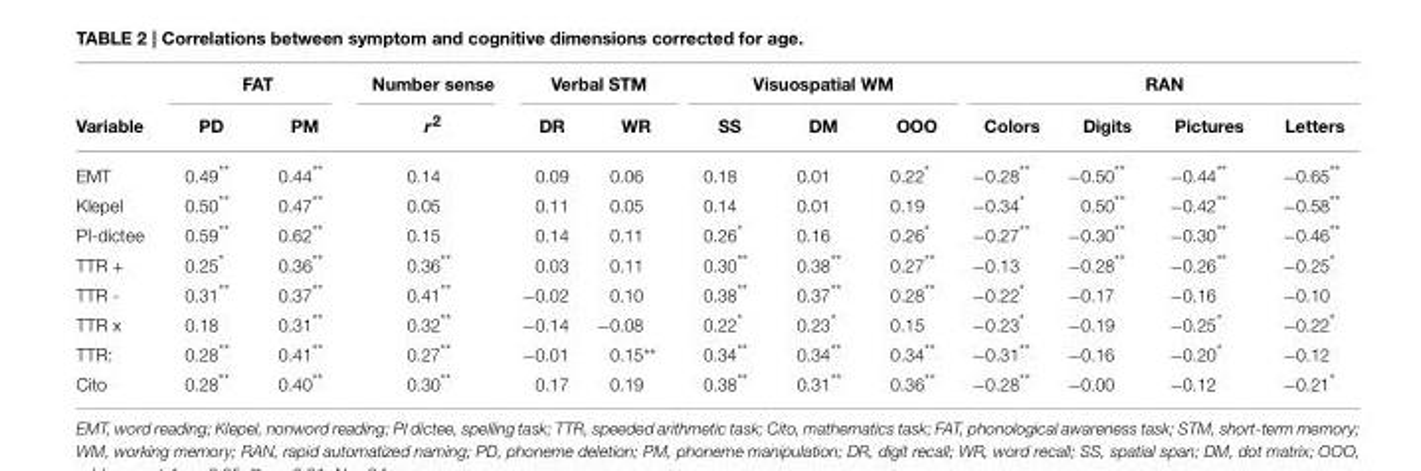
<table><thead><tr><td rowspan="2">Variable</td><td colspan="2">FAT</td><td rowspan="2">Number sense r<sup>2</sup></td><td colspan="2">Verbal STM</td><td colspan="3">Visuospatial WM</td><td colspan="4">RAN</td></tr><tr><td>PD</td><td>PM</td><td>DR</td><td>WR</td><td>SS</td><td>DM</td><td>OOO</td><td>Colors</td><td>Digits</td><td>Pictures</td><td>Letters</td></tr></thead><tbody><tr><td>EMT</td><td>0.49**</td><td>0.44**</td><td>0.14</td><td>0.09</td><td>0.06</td><td>0.18</td><td>0.01</td><td>0.22*</td><td>−0.28**</td><td>−0.50**</td><td>−0.44**</td><td>−0.65**</td></tr><tr><td>Klepel</td><td>0.50**</td><td>0.47**</td><td>0.05</td><td>0.11</td><td>0.05</td><td>0.14</td><td>0.01</td><td>0.19</td><td>−0.34*</td><td>0.50**</td><td>−0.42**</td><td>−0.58**</td></tr><tr><td>PI-dictee</td><td>0.59**</td><td>0.62**</td><td>0.15</td><td>0.14</td><td>0.11</td><td>0.26*</td><td>0.16</td><td>0.26*</td><td>−0.27**</td><td>−0.30**</td><td>−0.30**</td><td>−0.46**</td></tr><tr><td>TTR +</td><td>0.25*</td><td>0.36**</td><td>0.36**</td><td>0.03</td><td>0.11</td><td>0.30**</td><td>0.38**</td><td>0.27**</td><td>−0.13</td><td>−0.28**</td><td>−0.26**</td><td>−0.25*</td></tr><tr><td>TTR -</td><td>0.31**</td><td>0.37**</td><td>0.41**</td><td>−0.02</td><td>0.10</td><td>0.38**</td><td>0.37**</td><td>0.28**</td><td>−0.22*</td><td>−0.17</td><td>−0.16</td><td>−0.10</td></tr><tr><td>TTR x</td><td>0.18</td><td>0.31**</td><td>0.32**</td><td>−0.14</td><td>−0.08</td><td>0.22*</td><td>0.23*</td><td>0.15</td><td>−0.23*</td><td>−0.19</td><td>−0.25*</td><td>−0.22*</td></tr><tr><td>TTR:</td><td>0.28**</td><td>0.41**</td><td>0.27**</td><td>−0.01</td><td>0.15**</td><td>0.34**</td><td>0.34**</td><td>0.34**</td><td>−0.31**</td><td>−0.16</td><td>−0.20*</td><td>−0.12</td></tr><tr><td>Cito</td><td>0.28**</td><td>0.40**</td><td>0.30**</td><td>0.17</td><td>0.19</td><td>0.38**</td><td>0.31**</td><td>0.36**</td><td>−0.28**</td><td>−0.00</td><td>−0.12</td><td>−0.21*</td></tr></tbody></table>